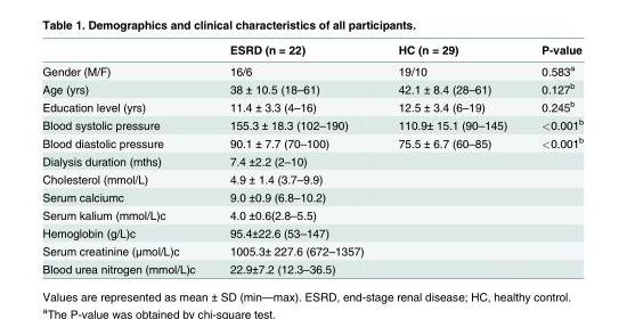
<table><thead><tr><td></td><td>ESRD (n = 22)</td><td>HC (n = 29)</td><td>P-value</td></tr></thead><tbody><tr><td>Gender (M/F)</td><td>16/6</td><td>19/10</td><td>0.583<sup>a</sup></td></tr><tr><td>Age (yrs)</td><td>38 ± 10.5 (18–61)</td><td>42.1 ± 8.4 (28–61)</td><td>0.127<sup>b</sup></td></tr><tr><td>Education level (yrs)</td><td>11.4 ± 3.3 (4–16)</td><td>12.5 ± 3.4 (6–19)</td><td>0.245<sup>b</sup></td></tr><tr><td>Blood systolic pressure</td><td>155.3 ± 18.3 (102–190)</td><td>110.9± 15.1 (90–145)</td><td>&lt;0.001<sup>b</sup></td></tr><tr><td>Blood diastolic pressure</td><td>90.1 ± 7.7 (70–100)</td><td>75.5 ± 6.7 (60–85)</td><td>&lt;0.001<sup>b</sup></td></tr><tr><td>Dialysis duration (mths)</td><td>7.4 ±2.2 (2–10)</td><td></td><td></td></tr><tr><td>Cholesterol (mmol/L)</td><td>4.9 ± 1.4 (3.7–9.9)</td><td></td><td></td></tr><tr><td>Serum calciumc</td><td>9.0 ±0.9 (6.8–10.2)</td><td></td><td></td></tr><tr><td>Serum kalium (mmol/L)<sup>c</sup></td><td>4.0 ±0.6(2.8–5.5)</td><td></td><td></td></tr><tr><td>Hemoglobin (g/L)c</td><td>95.4±22.6 (53–147)</td><td></td><td></td></tr><tr><td>Serum creatinine (μmol/L)<sup>c</sup></td><td>1005.3± 227.6 (672–1357)</td><td></td><td></td></tr><tr><td>Blood urea nitrogen (mmol/L)<sup>c</sup></td><td>22.9±7.2 (12.3–36.5)</td><td></td><td></td></tr></tbody></table>